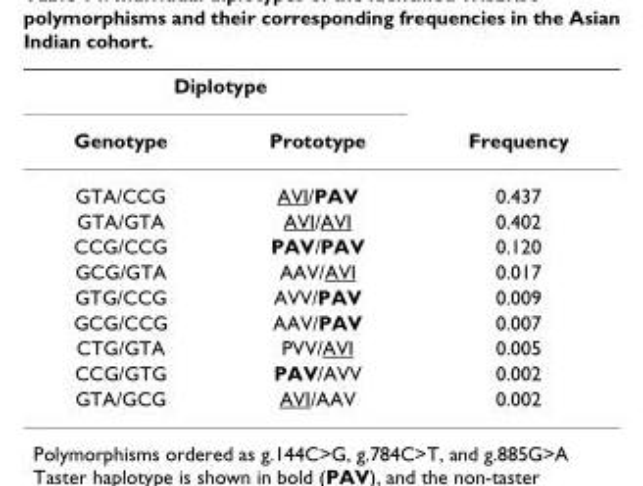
<table><thead><tr><td colspan="2">Diplotype</td><td rowspan="2">Frequency</td></tr><tr><td>Genotype</td><td>Prototype</td></tr></thead><tbody><tr><td>GTA/CCG</td><td>AVI/PAV</td><td>0.437</td></tr><tr><td>GTA/GTA</td><td>AVI/AVI</td><td>0.402</td></tr><tr><td>CCG/CCG</td><td>PAV/PAV</td><td>0.120</td></tr><tr><td>GCG/GTA</td><td>AAV/AVI</td><td>0.017</td></tr><tr><td>GTG/CCG</td><td>AVV/PAV</td><td>0.009</td></tr><tr><td>GCG/CCG</td><td>AAV/PAV</td><td>0.007</td></tr><tr><td>CTG/GTA</td><td>PVV/AVI</td><td>0.005</td></tr><tr><td>CCG/GTG</td><td>PAV/AVV</td><td>0.002</td></tr><tr><td>GTA/GCG</td><td>AVI/AAV</td><td>0.002</td></tr></tbody></table>